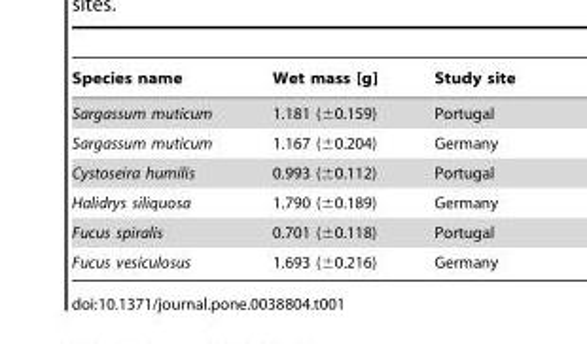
<table><thead><tr><td>Species name</td><td>Wet mass [g]</td><td>Study site</td></tr></thead><tbody><tr><td>Sargassum muticum</td><td>1.181 (±0.159)</td><td>Portugal</td></tr><tr><td>Sargassum muticum</td><td>1.167 (±0.204)</td><td>Germany</td></tr><tr><td>Cystoseira humilis</td><td>0.993 (±0.112)</td><td>Portugal</td></tr><tr><td>Halidrys siliquosa</td><td>1.790 (±0.189)</td><td>Germany</td></tr><tr><td>Fucus spiralis</td><td>0.701 (±0.118)</td><td>Portugal</td></tr><tr><td>Fucus vesiculosus</td><td>1.693 (±0.216)</td><td>Germany</td></tr></tbody></table>